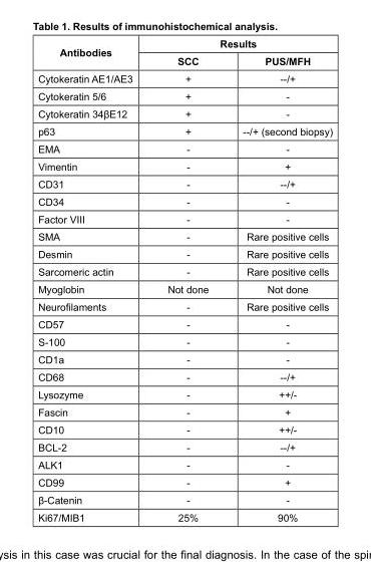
<table><thead><tr><td rowspan="2">Antibodies</td><td colspan="2">Results</td></tr><tr><td>SCC</td><td>PUS/MFH</td></tr></thead><tbody><tr><td>Cytokeratin AE1/AE3</td><td>+</td><td>--/+</td></tr><tr><td>Cytokeratin 5/6</td><td>+</td><td>-</td></tr><tr><td>Cytokeratin 34βΕ12</td><td>+</td><td>-</td></tr><tr><td>p63</td><td>+</td><td>--/+ (second biopsy)</td></tr><tr><td>EMA</td><td>-</td><td>-</td></tr><tr><td>Vimentin</td><td>-</td><td>+</td></tr><tr><td>CD31</td><td>-</td><td>--/+</td></tr><tr><td>CD34</td><td>-</td><td>-</td></tr><tr><td>Factor VIII</td><td>-</td><td>-</td></tr><tr><td>SMA</td><td>-</td><td>Rare positive cells</td></tr><tr><td>Desmin</td><td>-</td><td>Rare positive cells</td></tr><tr><td>Sarcomeric actin</td><td>-</td><td>Rare positive cells</td></tr><tr><td>Myoglobin</td><td>Not done</td><td>Not done</td></tr><tr><td>Neurofilaments</td><td>-</td><td>Rare positive cells</td></tr><tr><td>CD57</td><td>-</td><td>-</td></tr><tr><td>S-100</td><td>-</td><td>-</td></tr><tr><td>CD1a</td><td>-</td><td>-</td></tr><tr><td>CD68</td><td>-</td><td>--/+</td></tr><tr><td>Lysozyme</td><td>-</td><td>++/-</td></tr><tr><td>Fascin</td><td>-</td><td>+</td></tr><tr><td>CD10</td><td>-</td><td>++/-</td></tr><tr><td>BCL-2</td><td>-</td><td>--/+</td></tr><tr><td>ALK1</td><td>-</td><td>-</td></tr><tr><td>CD99</td><td>-</td><td>+</td></tr><tr><td>β-Catenin</td><td>-</td><td>-</td></tr><tr><td>Ki67/MIB1</td><td>25%</td><td>90%</td></tr></tbody></table>